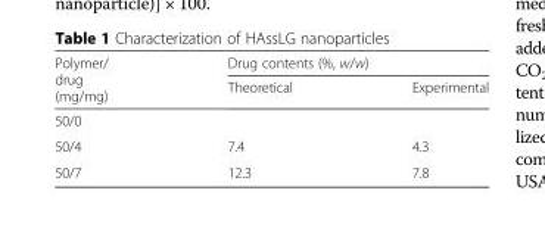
<table><thead><tr><td rowspan="2">Polymer/ drug (mg/mg)</td><td colspan="2">Drug contents (%, w/w)</td></tr><tr><td>Theoretical</td><td>Experimental</td></tr></thead><tbody><tr><td colspan="3">50/0</td></tr><tr><td>50/4</td><td>7.4</td><td>4.3</td></tr><tr><td>50/7</td><td>12.3</td><td>7.8</td></tr></tbody></table>